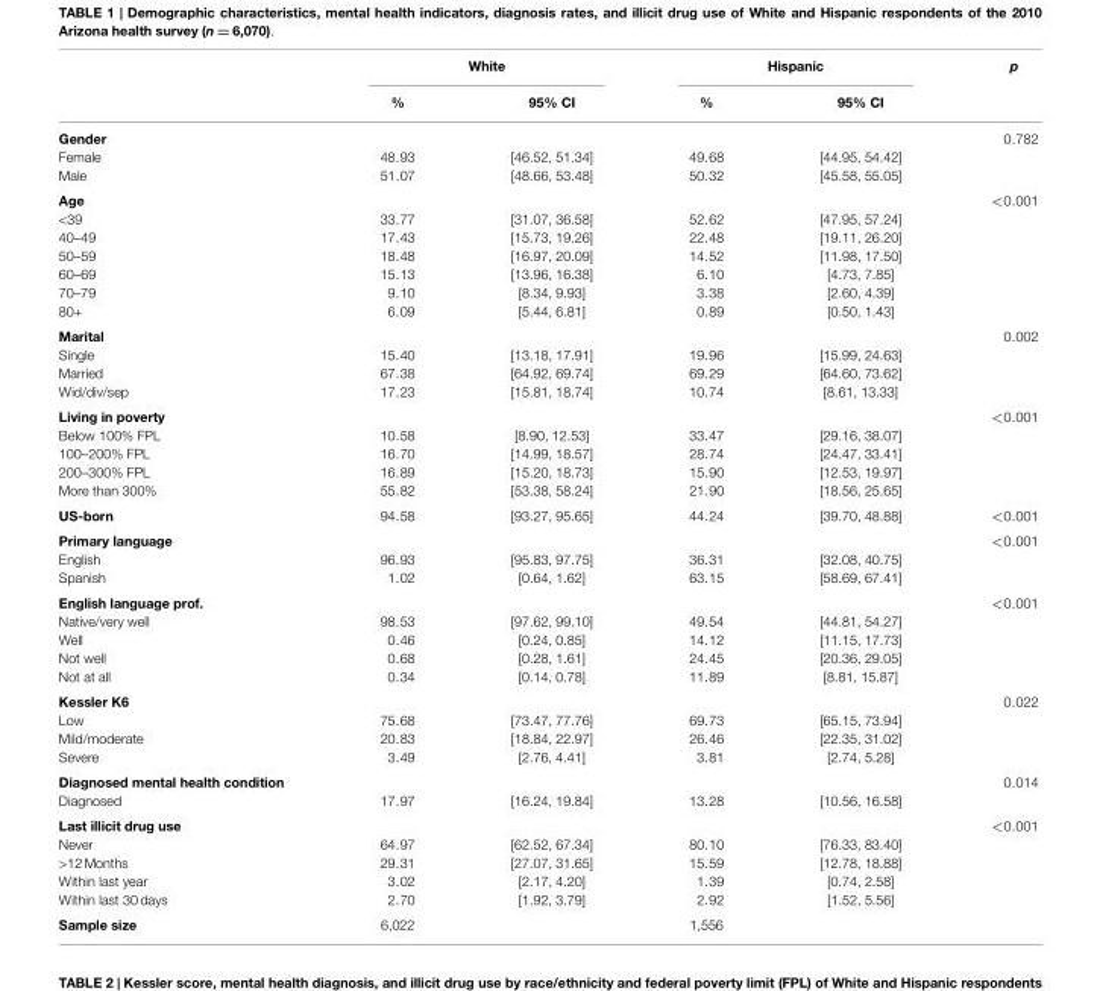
<table><thead><tr><td rowspan="2"></td><td colspan="2">White</td><td colspan="2">Hispanic</td><td rowspan="2">p</td></tr><tr><td>%</td><td>95% CI</td><td>%</td><td>95% CI</td></tr></thead><tbody><tr><td>Gender</td><td></td><td></td><td></td><td></td><td>0.782</td></tr><tr><td>Female</td><td>48.93</td><td>[46.52, 51.34]</td><td>49.68</td><td>[44.95, 54.42]</td><td></td></tr><tr><td>Male</td><td>51.07</td><td>[48.66, 53.48]</td><td>50.32</td><td>[45.58, 55.05]</td><td></td></tr><tr><td>Age</td><td></td><td></td><td></td><td></td><td>&lt;0.001</td></tr><tr><td>&lt;39</td><td>33.77</td><td>[31.07, 36.58]</td><td>52.62</td><td>[47.95, 57.24]</td><td></td></tr><tr><td>40–49</td><td>17.43</td><td>[15.73, 19.26]</td><td>22.48</td><td>[19.11, 26.20]</td><td></td></tr><tr><td>50–59</td><td>18.48</td><td>[16.97, 20.09]</td><td>14.52</td><td>[11.98, 17.50]</td><td></td></tr><tr><td>60–69</td><td>15.13</td><td>[13.96, 16.38]</td><td>6.10</td><td>[4.73, 7.85]</td><td></td></tr><tr><td>70–79</td><td>9.10</td><td>[8.34, 9.93]</td><td>3.38</td><td>[2.60, 4.39]</td><td></td></tr><tr><td>80+</td><td>6.09</td><td>[5.44, 6.81]</td><td>0.89</td><td>[0.50, 1.43]</td><td></td></tr><tr><td>Marital</td><td></td><td></td><td></td><td></td><td>0.002</td></tr><tr><td>Single</td><td>15.40</td><td>[13.18, 17.91]</td><td>19.96</td><td>[15.99, 24.63]</td><td></td></tr><tr><td>Married</td><td>67.38</td><td>[64.92, 69.74]</td><td>69.29</td><td>[64.60, 73.62]</td><td></td></tr><tr><td>Wid/div/sep</td><td>17.23</td><td>[15.81, 18.74]</td><td>10.74</td><td>[8.61, 13.33]</td><td></td></tr><tr><td>Living in poverty</td><td></td><td></td><td></td><td></td><td>&lt;0.001</td></tr><tr><td>Below 100% FPL</td><td>10.58</td><td>[8.90, 12.53]</td><td>33.47</td><td>[29.16, 38.07]</td><td></td></tr><tr><td>100–200% FPL</td><td>16.70</td><td>[14.99, 18.57]</td><td>28.74</td><td>[24.47, 33.41]</td><td></td></tr><tr><td>200–300% FPL</td><td>16.89</td><td>[15.20, 18.73]</td><td>15.90</td><td>[12.53, 19.97]</td><td></td></tr><tr><td>More than 300%</td><td>55.82</td><td>[53.38, 58.24]</td><td>21.90</td><td>[18.56, 25.65]</td><td></td></tr><tr><td>US-born</td><td>94.58</td><td>[93.27, 95.65]</td><td>44.24</td><td>[39.70, 48.88]</td><td>&lt;0.001</td></tr><tr><td>Primary language</td><td></td><td></td><td></td><td></td><td>&lt;0.001</td></tr><tr><td>English</td><td>96.93</td><td>[95.83, 97.75]</td><td>36.31</td><td>[32.08, 40.75]</td><td></td></tr><tr><td>Spanish</td><td>1.02</td><td>[0.64, 1.62]</td><td>63.15</td><td>[58.69, 67.41]</td><td></td></tr><tr><td>English language prof.</td><td></td><td></td><td></td><td></td><td>&lt;0.001</td></tr><tr><td>Native/very well</td><td>98.53</td><td>[97.62, 99.10]</td><td>49.54</td><td>[44.81, 54.27]</td><td></td></tr><tr><td>Well</td><td>0.46</td><td>[0.24, 0.85]</td><td>14.12</td><td>[11.15, 17.73]</td><td></td></tr><tr><td>Not well</td><td>0.68</td><td>[0.28, 1.61]</td><td>24.45</td><td>[20.36, 29.05]</td><td></td></tr><tr><td>Not at all</td><td>0.34</td><td>[0.14, 0.78]</td><td>11.89</td><td>[8.81, 15.87]</td><td></td></tr><tr><td>Kessler K6</td><td></td><td></td><td></td><td></td><td>0.022</td></tr><tr><td>Low</td><td>75.68</td><td>[73.47, 77.76]</td><td>69.73</td><td>[65.15, 73.94]</td><td></td></tr><tr><td>Mild/moderate</td><td>20.83</td><td>[18.84, 22.97]</td><td>26.46</td><td>[22.35, 31.02]</td><td></td></tr><tr><td>Severe</td><td>3.49</td><td>[2.76, 4.41]</td><td>3.81</td><td>[2.74, 5.28]</td><td></td></tr><tr><td>Diagnosed mental health condition</td><td></td><td></td><td></td><td></td><td>0.014</td></tr><tr><td>Diagnosed</td><td>17.97</td><td>[16.24, 19.84]</td><td>13.28</td><td>[10.56, 16.58]</td><td></td></tr><tr><td>Last illicit drug use</td><td></td><td></td><td></td><td></td><td>&lt;0.001</td></tr><tr><td>Never</td><td>64.97</td><td>[62.52, 67.34]</td><td>80.10</td><td>[76.33, 83.40]</td><td></td></tr><tr><td>&gt;12 Months</td><td>29.31</td><td>[27.07, 31.65]</td><td>15.59</td><td>[12.78, 18.88]</td><td></td></tr><tr><td>Within last year</td><td>3.02</td><td>[2.17, 4.20]</td><td>1.39</td><td>[0.74, 2.58]</td><td></td></tr><tr><td>Within last 30 days</td><td>2.70</td><td>[1.92, 3.79]</td><td>2.92</td><td>[1.52, 5.56]</td><td></td></tr><tr><td>Sample size</td><td>6,022</td><td></td><td>1,556</td><td></td><td></td></tr></tbody></table>